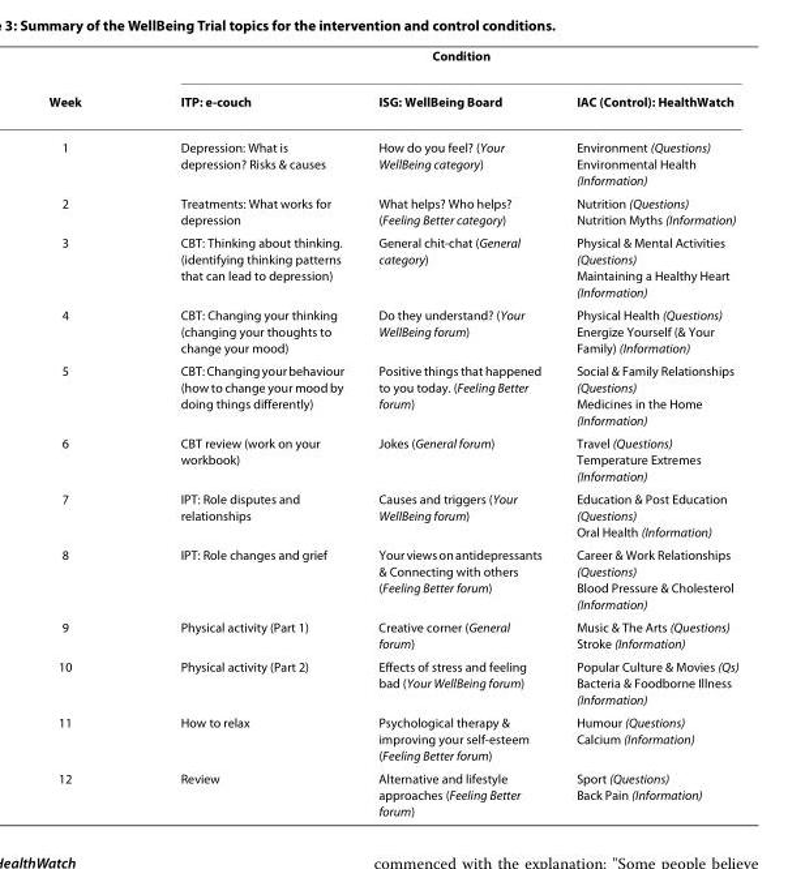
<table><thead><tr><td rowspan="2">Week</td><td colspan="3">Condition</td></tr><tr><td>ITP: e-couch</td><td>ISG: WellBeing Board</td><td>IAC (Control): HealthWatch</td></tr></thead><tbody><tr><td>1</td><td>Depression: What is depression? Risks &amp; causes</td><td>How do you feel? (Your WellBeing category)</td><td>Environment (Questions) Environmental Health (Information)</td></tr><tr><td>2</td><td>Treatments: What works for depression</td><td>What helps? Who helps? (Feeling Better category)</td><td>Nutrition (Questions) Nutrition Myths (Information)</td></tr><tr><td>3</td><td>CBT: Thinking about thinking. (identifying thinking patterns that can lead to depression)</td><td>General chit-chat (General category)</td><td>Physical &amp; Mental Activities (Questions) Maintaining a Healthy Heart (Information)</td></tr><tr><td>4</td><td>CBT: Changing your thinking (changing your thoughts to change your mood)</td><td>Do they understand? (Your WellBeing forum)</td><td>Physical Health (Questions) Energize Yourself (&amp; Your Family) (Information)</td></tr><tr><td>5</td><td>CBT: Changing your behaviour (how to change your mood by doing things differently)</td><td>Positive things that happened to you today. (Feeling Better forum)</td><td>Social &amp; Family Relationships (Questions) Medicines in the Home (Information)</td></tr><tr><td>6</td><td>CBT review (work on your workbook)</td><td>Jokes (General forum)</td><td>Travel (Questions) Temperature Extremes (Information)</td></tr><tr><td>7</td><td>IPT: Role disputes and relationships</td><td>Causes and triggers (Your WellBeing forum)</td><td>Education &amp; Post Education (Questions) Oral Health (Information)</td></tr><tr><td>8</td><td>IPT: Role changes and grief</td><td>Your views on antidepressants &amp; Connecting with others (Feeling Better forum)</td><td>Career &amp; Work Relationships (Questions) Blood Pressure &amp; Cholesterol (Information)</td></tr><tr><td>9</td><td>Physical activity (Part 1)</td><td>Creative corner (General forum)</td><td>Music &amp; The Arts (Questions) Stroke (Information)</td></tr><tr><td>10</td><td>Physical activity (Part 2)</td><td>Effects of stress and feeling bad (Your WellBeing forum)</td><td>Popular Culture &amp; Movies (Qs) Bacteria &amp; Foodborne Illness (Information)</td></tr><tr><td>11</td><td>How to relax</td><td>Psychological therapy &amp; improving your self-esteem (Feeling Better forum)</td><td>Humour (Questions) Calcium (Information)</td></tr><tr><td>12</td><td>Review</td><td>Alternative and lifestyle approaches (Feeling Better forum)</td><td>Sport (Questions) Back Pain (Information)</td></tr></tbody></table>